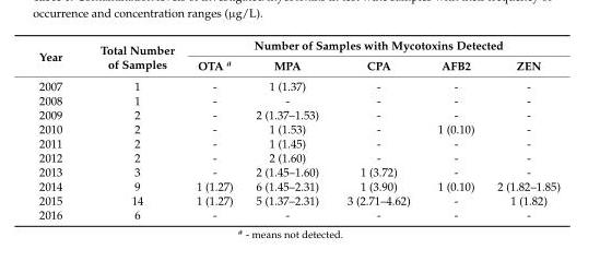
<table><thead><tr><td rowspan="2">Year</td><td rowspan="2">Total Number of Samples</td><td colspan="5">Number of Samples with Mycotoxins Detected</td></tr><tr><td>OTA <sup>a</sup></td><td>MPA</td><td>CPA</td><td>AFB2</td><td>ZEN</td></tr></thead><tbody><tr><td>2007</td><td>1</td><td>-</td><td>1 (1.37)</td><td>-</td><td>-</td><td>-</td></tr><tr><td>2008</td><td>1</td><td>-</td><td>-</td><td>-</td><td>-</td><td>-</td></tr><tr><td>2009</td><td>2</td><td>-</td><td>2 (1.37–1.53)</td><td>-</td><td>-</td><td>-</td></tr><tr><td>2010</td><td>2</td><td>-</td><td>1 (1.53)</td><td>-</td><td>1 (0.10)</td><td>-</td></tr><tr><td>2011</td><td>2</td><td>-</td><td>1 (1.45)</td><td>-</td><td>-</td><td>-</td></tr><tr><td>2012</td><td>2</td><td>-</td><td>2 (1.60)</td><td>-</td><td>-</td><td>-</td></tr><tr><td>2013</td><td>3</td><td>-</td><td>2 (1.45–1.60)</td><td>1 (3.72)</td><td>-</td><td>-</td></tr><tr><td>2014</td><td>9</td><td>1 (1.27)</td><td>6 (1.45–2.31)</td><td>1 (3.90)</td><td>1 (0.10)</td><td>2 (1.82–1.85)</td></tr><tr><td>2015</td><td>14</td><td>1 (1.27)</td><td>5 (1.37–2.31)</td><td>3 (2.71–4.62)</td><td>-</td><td>1 (1.82)</td></tr><tr><td>2016</td><td>6</td><td>-</td><td>-</td><td>-</td><td>-</td><td>-</td></tr></tbody></table>